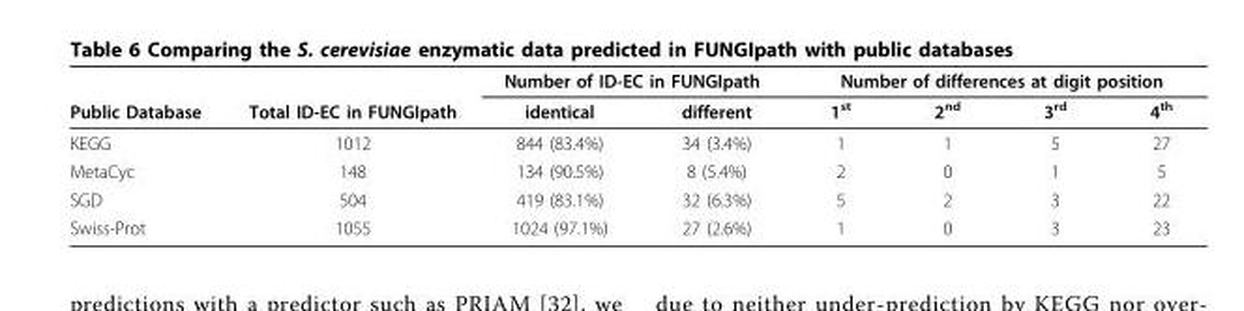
<table><thead><tr><td rowspan="2">Public Database</td><td rowspan="2">Total ID-EC in FUNGIpath</td><td colspan="2">Number of ID-EC in FUNGIpath</td><td colspan="4">Number of differences at digit position</td></tr><tr><td>identical</td><td>different</td><td>1<sup>st</sup></td><td>2<sup>nd</sup></td><td>3<sup>rd</sup></td><td>4<sup>th</sup></td></tr></thead><tbody><tr><td>KEGG</td><td>1012</td><td>844 (83.4%)</td><td>34 (3.4%)</td><td>1</td><td>1</td><td>5</td><td>27</td></tr><tr><td>MetaCyc</td><td>148</td><td>134 (90.5%)</td><td>8 (5.4%)</td><td>2</td><td>0</td><td>1</td><td>5</td></tr><tr><td>SGD</td><td>504</td><td>419 (83.1%)</td><td>32 (6.3%)</td><td>5</td><td>2</td><td>3</td><td>22</td></tr><tr><td>Swiss-Prot</td><td>1055</td><td>1024 (97.1%)</td><td>27 (2.6%)</td><td>1</td><td>0</td><td>3</td><td>23</td></tr></tbody></table>